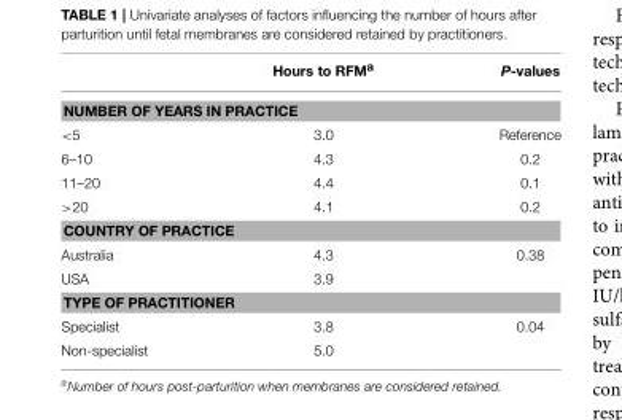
<table><thead><tr><td></td><td>Hours to RFM<sup>a</sup></td><td>P-values</td></tr></thead><tbody><tr><td colspan="3">NUMBER OF YEARS IN PRACTICE</td></tr><tr><td>&lt;5</td><td>3.0</td><td>Reference</td></tr><tr><td>6–10</td><td>4.3</td><td>0.2</td></tr><tr><td>11–20</td><td>4.4</td><td>0.1</td></tr><tr><td>&gt;20</td><td>4.1</td><td>0.2</td></tr><tr><td colspan="3">COUNTRY OF PRACTICE</td></tr><tr><td>Australia</td><td>4.3</td><td>0.38</td></tr><tr><td>USA</td><td>3.9</td><td></td></tr><tr><td colspan="3">TYPE OF PRACTITIONER</td></tr><tr><td>Specialist</td><td>3.8</td><td>0.04</td></tr><tr><td>Non-specialist</td><td>5.0</td><td></td></tr></tbody></table>